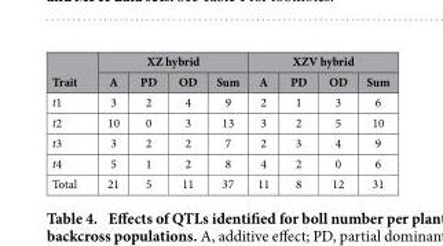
<table><thead><tr><td rowspan="2">Trait</td><td colspan="4">XZ hybrid</td><td colspan="4">XZV hybrid</td></tr><tr><td>A</td><td>PD</td><td>OD</td><td>Sum</td><td>A</td><td>PD</td><td>OD</td><td>Sum</td></tr></thead><tbody><tr><td>t1</td><td>3</td><td>2</td><td>4</td><td>9</td><td>2</td><td>1</td><td>3</td><td>6</td></tr><tr><td>t2</td><td>10</td><td>0</td><td>3</td><td>13</td><td>3</td><td>2</td><td>5</td><td>10</td></tr><tr><td>t3</td><td>3</td><td>2</td><td>2</td><td>7</td><td>2</td><td>3</td><td>4</td><td>9</td></tr><tr><td>t4</td><td>5</td><td>1</td><td>2</td><td>8</td><td>4</td><td>2</td><td>0</td><td>6</td></tr><tr><td>Total</td><td>21</td><td>5</td><td>11</td><td>37</td><td>11</td><td>8</td><td>12</td><td>31</td></tr></tbody></table>